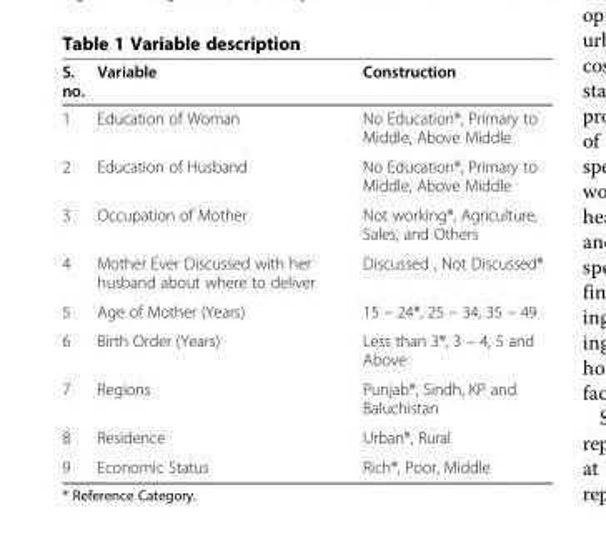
<table><thead><tr><td>S. no.</td><td>Variable</td><td>Construction</td></tr></thead><tbody><tr><td>1</td><td>Education of Woman</td><td>No Education®, Primary to Middle, Above Middle</td></tr><tr><td>2</td><td>Education of Husband</td><td>No Education®, Primary to Middle, Above Middle</td></tr><tr><td>3</td><td>Occupation of Mother</td><td>Not working®, Agriculture, Sales, and Others</td></tr><tr><td>4</td><td>Mother Ever Discussed with her husband about where to deliver</td><td>Discussed , Not Discussed®</td></tr><tr><td>5</td><td>Age of Mother (Years)</td><td>15 – 24®, 25 – 34, 35 – 49</td></tr><tr><td>6</td><td>Birth Order (Years)</td><td>Less than 3®, 3 – 4, 5 and Above</td></tr><tr><td>7</td><td>Regions</td><td>Punjab®, Sindh, KP and Baluchistan</td></tr><tr><td>8</td><td>Residence</td><td>Urban®, Rural</td></tr><tr><td>9</td><td>Economic Status</td><td>Rich®, Poor, Middle</td></tr></tbody></table>